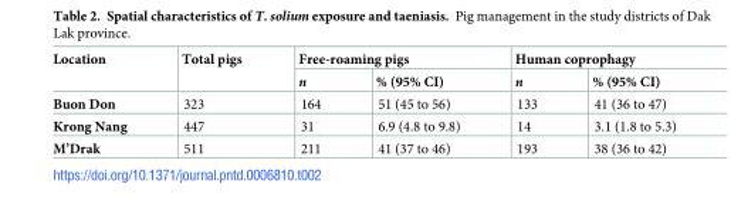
<table><thead><tr><td rowspan="2">Location</td><td rowspan="2">Total pigs</td><td colspan="2">Free-roaming pigs</td><td colspan="2">Human coprophagy</td></tr><tr><td>n</td><td>% (95% CI)</td><td>n</td><td>% (95% CI)</td></tr></thead><tbody><tr><td>Buon Don</td><td>323</td><td>164</td><td>51 (45 to 56)</td><td>133</td><td>41 (36 to 47)</td></tr><tr><td>Krong Nang</td><td>447</td><td>31</td><td>6.9 (4.8 to 9.8)</td><td>14</td><td>3.1 (1.8 to 5.3)</td></tr><tr><td>M’Drak</td><td>511</td><td>211</td><td>41 (37 to 46)</td><td>193</td><td>38 (36 to 42)</td></tr></tbody></table>